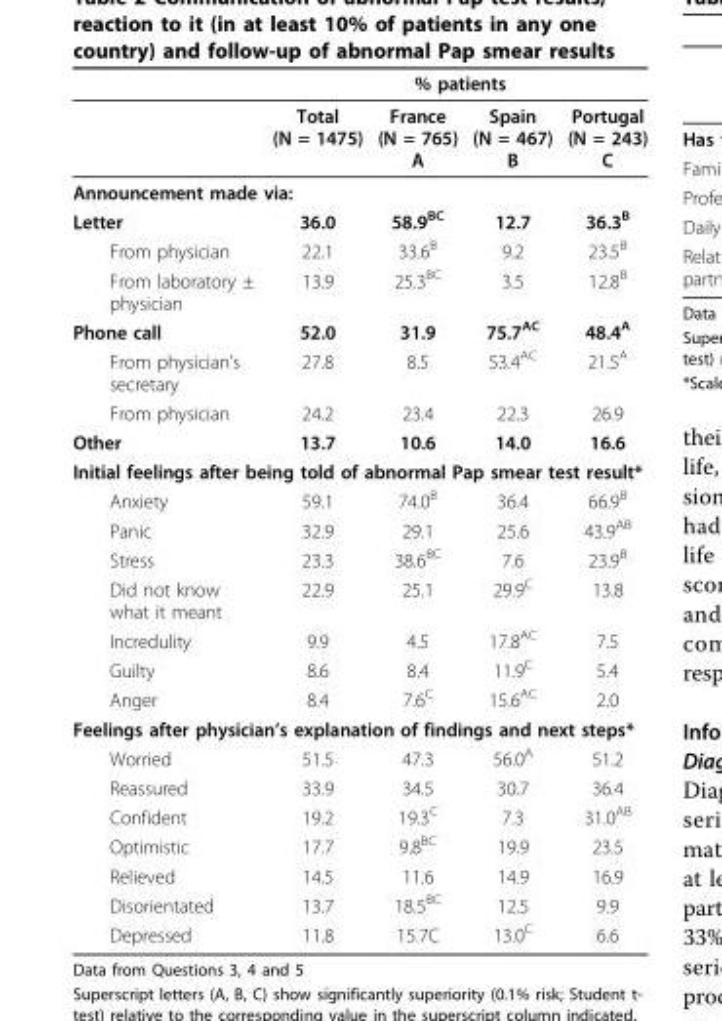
<table><thead><tr><td rowspan="2"></td><td colspan="4">% patients</td></tr><tr><td>Total (N = 1475)</td><td>France (N = 765) A</td><td>Spain (N = 467) B</td><td>Portugal (N = 243) C</td></tr></thead><tbody><tr><td colspan="5">Announcement made via:</td></tr><tr><td>Letter</td><td>36.0</td><td>58.9<sup>BC</sup></td><td>12.7</td><td>36.3<sup>B</sup></td></tr><tr><td>From physician</td><td>22.1</td><td>33.6<sup>B</sup></td><td>9.2</td><td>23.5<sup>B</sup></td></tr><tr><td>From laboratory ± physician</td><td>13.9</td><td>25.3<sup>BC</sup></td><td>3.5</td><td>12.8<sup>B</sup></td></tr><tr><td>Phone call</td><td>52.0</td><td>31.9</td><td>75.7<sup>AC</sup></td><td>48.4<sup>A</sup></td></tr><tr><td>From physician’s secretary</td><td>27.8</td><td>8.5</td><td>53.4<sup>AC</sup></td><td>21.5<sup>A</sup></td></tr><tr><td>From physician</td><td>24.2</td><td>23.4</td><td>22.3</td><td>26.9</td></tr><tr><td>Other</td><td>13.7</td><td>10.6</td><td>14.0</td><td>16.6</td></tr><tr><td colspan="5">Initial feelings after being told of abnormal Pap smear test result*</td></tr><tr><td>Anxiety</td><td>59.1</td><td>74.0<sup>B</sup></td><td>36.4</td><td>66.9<sup>B</sup></td></tr><tr><td>Panic</td><td>32.9</td><td>29.1</td><td>25.6</td><td>43.9<sup>AB</sup></td></tr><tr><td>Stress</td><td>23.3</td><td>38.6<sup>BC</sup></td><td>7.6</td><td>23.9<sup>B</sup></td></tr><tr><td>Did not know what it meant</td><td>22.9</td><td>25.1</td><td>29.9<sup>C</sup></td><td>13.8</td></tr><tr><td>Incredulity</td><td>9.9</td><td>4.5</td><td>17.8<sup>AC</sup></td><td>7.5</td></tr><tr><td>Guilty</td><td>8.6</td><td>8.4</td><td>11.9<sup>C</sup></td><td>5.4</td></tr><tr><td>Anger</td><td>8.4</td><td>7.6<sup>C</sup></td><td>15.6<sup>AC</sup></td><td>2.0</td></tr><tr><td colspan="5">Feelings after physician’s explanation of findings and next steps*</td></tr><tr><td>Worried</td><td>51.5</td><td>47.3</td><td>56.0<sup>A</sup></td><td>51.2</td></tr><tr><td>Reassured</td><td>33.9</td><td>34.5</td><td>30.7</td><td>36.4</td></tr><tr><td>Confident</td><td>19.2</td><td>19.3<sup>C</sup></td><td>7.3</td><td>31.0<sup>AB</sup></td></tr><tr><td>Optimistic</td><td>17.7</td><td>9.8<sup>BC</sup></td><td>19.9</td><td>23.5</td></tr><tr><td>Relieved</td><td>14.5</td><td>11.6</td><td>14.9</td><td>16.9</td></tr><tr><td>Disorientated</td><td>13.7</td><td>18.5<sup>BC</sup></td><td>12.5</td><td>9.9</td></tr><tr><td>Depressed</td><td>11.8</td><td>15.7C</td><td>13.0<sup>C</sup></td><td>6.6</td></tr></tbody></table>